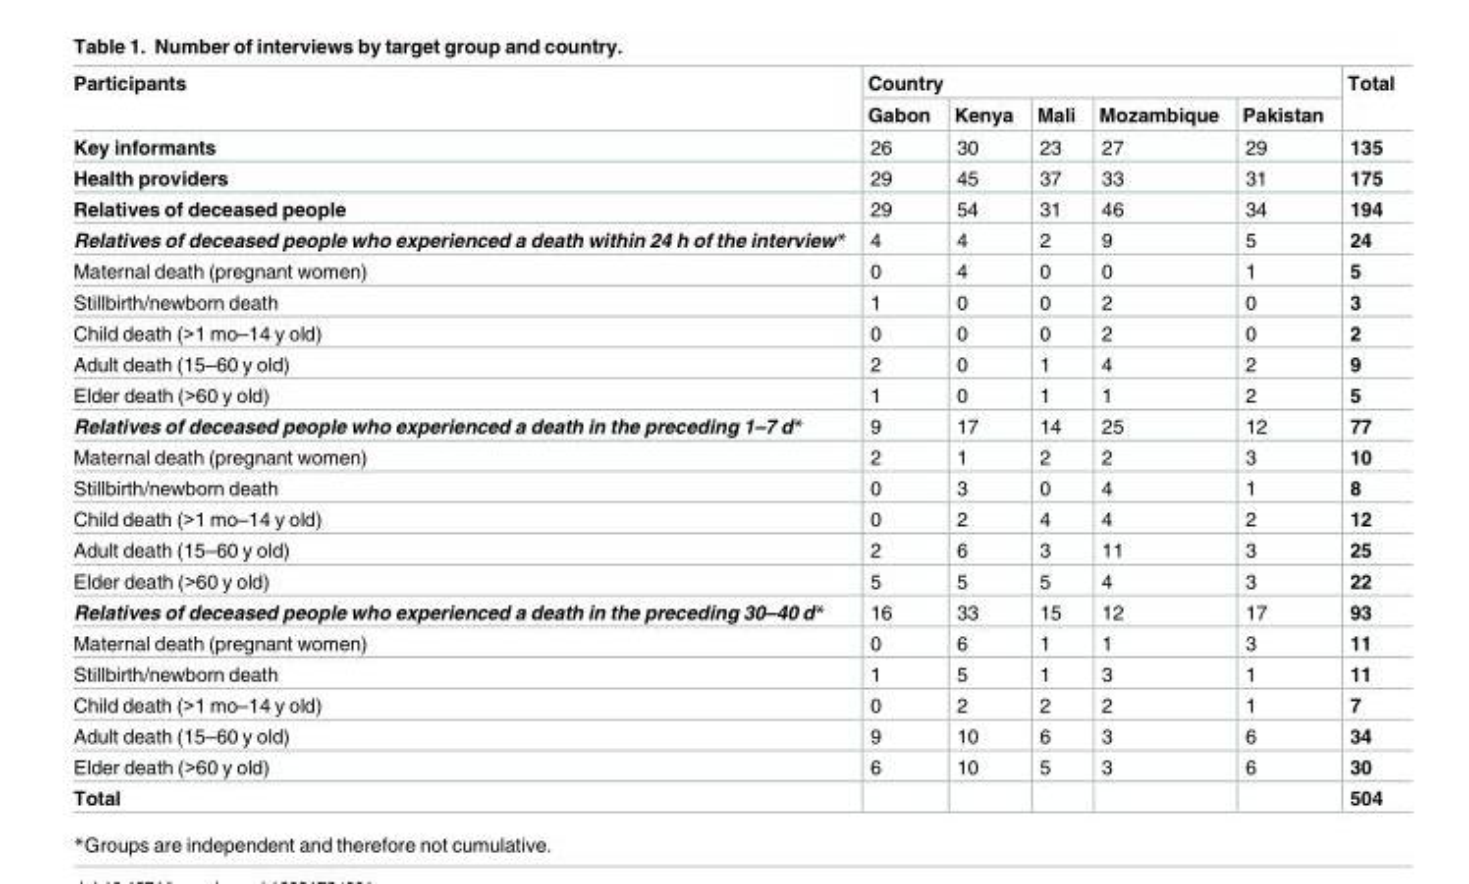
<table><thead><tr><td rowspan="2">Participants</td><td colspan="5">Country</td><td rowspan="2">Total</td></tr><tr><td>Gabon</td><td>Kenya</td><td>Mali</td><td>Mozambique</td><td>Pakistan</td></tr></thead><tbody><tr><td>Key informants</td><td>26</td><td>30</td><td>23</td><td>27</td><td>29</td><td>135</td></tr><tr><td>Health providers</td><td>29</td><td>45</td><td>37</td><td>33</td><td>31</td><td>175</td></tr><tr><td>Relatives of deceased people</td><td>29</td><td>54</td><td>31</td><td>46</td><td>34</td><td>194</td></tr><tr><td>Relatives of deceased people who experienced a death within 24 h of the interview*</td><td>4</td><td>4</td><td>2</td><td>9</td><td>5</td><td>24</td></tr><tr><td>Maternal death (pregnant women)</td><td>0</td><td>4</td><td>0</td><td>0</td><td>1</td><td>5</td></tr><tr><td>Stillbirth/newborn death</td><td>1</td><td>0</td><td>0</td><td>2</td><td>0</td><td>3</td></tr><tr><td>Child death (&gt;1 mo–14 y old)</td><td>0</td><td>0</td><td>0</td><td>2</td><td>0</td><td>2</td></tr><tr><td>Adult death (15–60 y old)</td><td>2</td><td>0</td><td>1</td><td>4</td><td>2</td><td>9</td></tr><tr><td>Elder death (&gt;60 y old)</td><td>1</td><td>0</td><td>1</td><td>1</td><td>2</td><td>5</td></tr><tr><td>Relatives of deceased people who experienced a death in the preceding 1–7 d*</td><td>9</td><td>17</td><td>14</td><td>25</td><td>12</td><td>77</td></tr><tr><td>Maternal death (pregnant women)</td><td>2</td><td>1</td><td>2</td><td>2</td><td>3</td><td>10</td></tr><tr><td>Stillbirth/newborn death</td><td>0</td><td>3</td><td>0</td><td>4</td><td>1</td><td>8</td></tr><tr><td>Child death (&gt;1 mo–14 y old)</td><td>0</td><td>2</td><td>4</td><td>4</td><td>2</td><td>12</td></tr><tr><td>Adult death (15–60 y old)</td><td>2</td><td>6</td><td>3</td><td>11</td><td>3</td><td>25</td></tr><tr><td>Elder death (&gt;60 y old)</td><td>5</td><td>5</td><td>5</td><td>4</td><td>3</td><td>22</td></tr><tr><td>Relatives of deceased people who experienced a death in the preceding 30–40 d*</td><td>16</td><td>33</td><td>15</td><td>12</td><td>17</td><td>93</td></tr><tr><td>Maternal death (pregnant women)</td><td>0</td><td>6</td><td>1</td><td>1</td><td>3</td><td>11</td></tr><tr><td>Stillbirth/newborn death</td><td>1</td><td>5</td><td>1</td><td>3</td><td>1</td><td>11</td></tr><tr><td>Child death (&gt;1 mo–14 y old)</td><td>0</td><td>2</td><td>2</td><td>2</td><td>1</td><td>7</td></tr><tr><td>Adult death (15–60 y old)</td><td>9</td><td>10</td><td>6</td><td>3</td><td>6</td><td>34</td></tr><tr><td>Elder death (&gt;60 y old)</td><td>6</td><td>10</td><td>5</td><td>3</td><td>6</td><td>30</td></tr><tr><td>Total</td><td></td><td></td><td></td><td></td><td></td><td>504</td></tr></tbody></table>